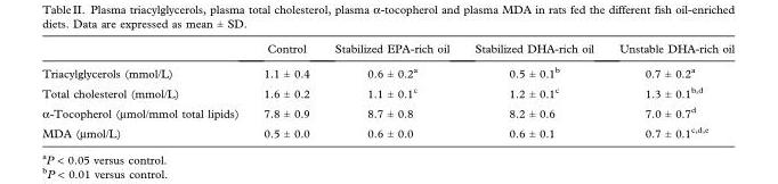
<table><thead><tr><td></td><td>Control</td><td>Stabilized EPA-rich oil</td><td>Stabilized DHA-rich oil</td><td>Unstable DHA-rich oil</td></tr></thead><tbody><tr><td>Triacylglycerols (mmol/L)</td><td>1.1 ± 0.4</td><td>0.6 ± 0.2<sup>a</sup></td><td>0.5 ± 0.1<sup>b</sup></td><td>0.7 ± 0.2<sup>a</sup></td></tr><tr><td>Total cholesterol (mmol/L)</td><td>1.6 ± 0.2</td><td>1.1 ± 0.1<sup>c</sup></td><td>1.2 ± 0.1<sup>c</sup></td><td>1.3 ± 0.1<sup>b,d</sup></td></tr><tr><td>α-Tocopherol (μmol/mmol total lipids)</td><td>7.8 ± 0.9</td><td>8.7 ± 0.8</td><td>8.2 ± 0.6</td><td>7.0 ± 0.7<sup>d</sup></td></tr><tr><td>MDA (μmol/L)</td><td>0.5 ± 0.0</td><td>0.6 ± 0.0</td><td>0.6 ± 0.1</td><td>0.7 ± 0.1<sup>c,d,e</sup></td></tr></tbody></table>